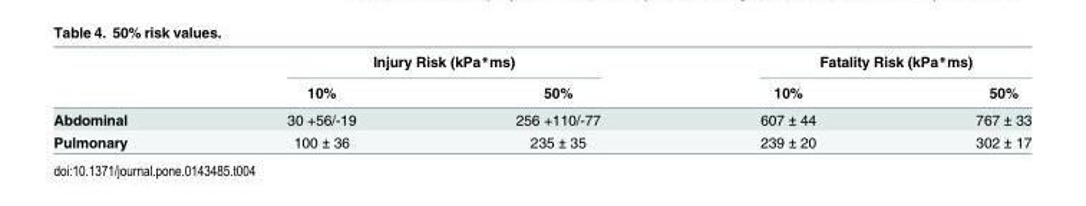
<table><thead><tr><td rowspan="2"></td><td colspan="2">Injury Risk (kPa*ms)</td><td colspan="2">Fatality Risk (kPa*ms)</td></tr><tr><td>10%</td><td>50%</td><td>10%</td><td>50%</td></tr></thead><tbody><tr><td>Abdominal</td><td>30 +56/-19</td><td>256 +110/-77</td><td>607 ± 44</td><td>767 ± 33</td></tr><tr><td>Pulmonary</td><td>100 ± 36</td><td>235 ± 35</td><td>239 ± 20</td><td>302 ± 17</td></tr></tbody></table>